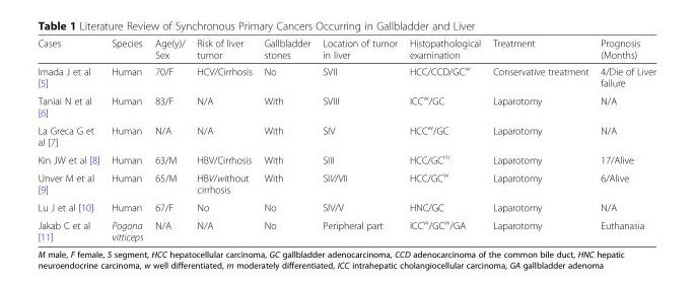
<table><thead><tr><td>Cases</td><td>Species</td><td>Age(y)/ Sex</td><td>Risk of liver tumor</td><td>Gallbladder stones</td><td>Location of tumor in liver</td><td>Histopathological examination</td><td>Treatment</td><td>Prognosis (Months)</td></tr></thead><tbody><tr><td>Imada J et al [5]</td><td>Human</td><td>70/F</td><td>HCV/Cirrhosis</td><td>No</td><td>SVII</td><td>HCC/CCD/GC<sup>w</sup></td><td>Conservative treatment</td><td>4/Die of Liver failure</td></tr><tr><td>Taniai N et al [6]</td><td>Human</td><td>83/F</td><td>N/A</td><td>With</td><td>SVIII</td><td>ICC<sup>w</sup>/GC</td><td>Laparotomy</td><td>N/A</td></tr><tr><td>La Greca G et al [7]</td><td>Human</td><td>N/A</td><td>N/A</td><td>With</td><td>SIV</td><td>HCC<sup>w</sup>/GC</td><td>Laparotomy</td><td>N/A</td></tr><tr><td>Kin JW et al [8]</td><td>Human</td><td>63/M</td><td>HBV/Cirrhosis</td><td>With</td><td>SIII</td><td>HCC/GC<sup>m</sup></td><td>Laparotomy</td><td>17/Alive</td></tr><tr><td>Unver M et al [9]</td><td>Human</td><td>65/M</td><td>HBV/without cirrhosis</td><td>With</td><td>SIV/VII</td><td>HCC/GC<sup>w</sup></td><td>Laparotomy</td><td>6/Alive</td></tr><tr><td>Lu J et al [10]</td><td>Human</td><td>67/F</td><td>No</td><td>No</td><td>SIV/V</td><td>HNC/GC</td><td>Laparotomy</td><td>N/A</td></tr><tr><td>Jakab C et al [11]</td><td>Pogona vitticeps</td><td>N/A</td><td>N/A</td><td>No</td><td>Peripheral part</td><td>ICC<sup>w</sup>/GC<sup>w</sup>/GA</td><td>Laparotomy</td><td>Euthanasia</td></tr></tbody></table>